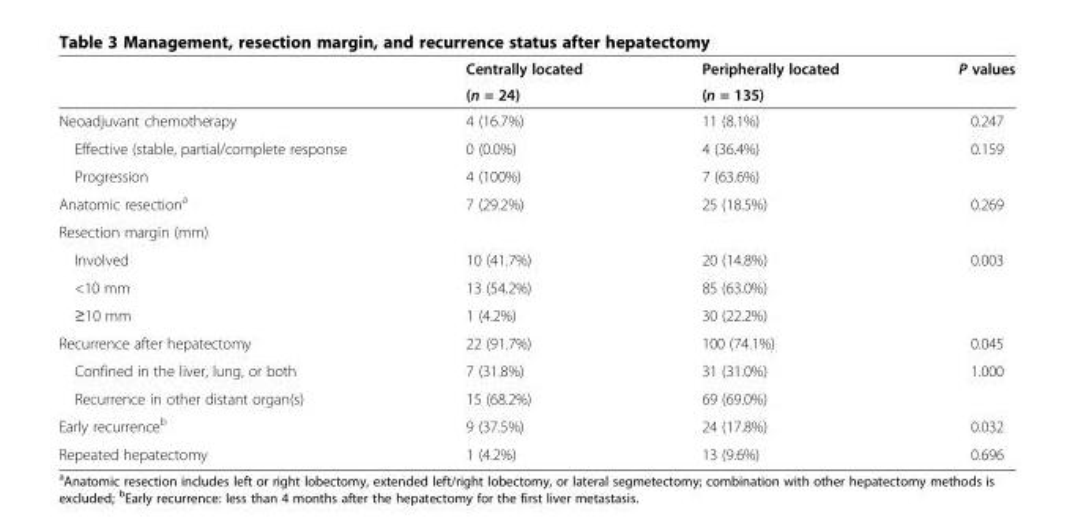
<table><thead><tr><td rowspan="2"></td><td rowspan="2">Centrally located (n = 24)</td><td rowspan="2">Peripherally located (n = 135)</td><td rowspan="2">P values</td></tr><tr></tr></thead><tbody><tr><td>Neoadjuvant chemotherapy</td><td>4 (16.7%)</td><td>11 (8.1%)</td><td>0.247</td></tr><tr><td>Effective (stable, partial/complete response</td><td>0 (0.0%)</td><td>4 (36.4%)</td><td>0.159</td></tr><tr><td>Progression</td><td>4 (100%)</td><td>7 (63.6%)</td><td></td></tr><tr><td>Anatomic resection<sup>a</sup></td><td>7 (29.2%)</td><td>25 (18.5%)</td><td>0.269</td></tr><tr><td colspan="4">Resection margin (mm)</td></tr><tr><td>Involved</td><td>10 (41.7%)</td><td>20 (14.8%)</td><td>0.003</td></tr><tr><td>&lt;10 mm</td><td>13 (54.2%)</td><td>85 (63.0%)</td><td></td></tr><tr><td>≥10 mm</td><td>1 (4.2%)</td><td>30 (22.2%)</td><td></td></tr><tr><td>Recurrence after hepatectomy</td><td>22 (91.7%)</td><td>100 (74.1%)</td><td>0.045</td></tr><tr><td>Confined in the liver, lung, or both</td><td>7 (31.8%)</td><td>31 (31.0%)</td><td>1.000</td></tr><tr><td>Recurrence in other distant organ(s)</td><td>15 (68.2%)</td><td>69 (69.0%)</td><td></td></tr><tr><td>Early recurrence<sup>b</sup></td><td>9 (37.5%)</td><td>24 (17.8%)</td><td>0.032</td></tr><tr><td>Repeated hepatectomy</td><td>1 (4.2%)</td><td>13 (9.6%)</td><td>0.696</td></tr></tbody></table>